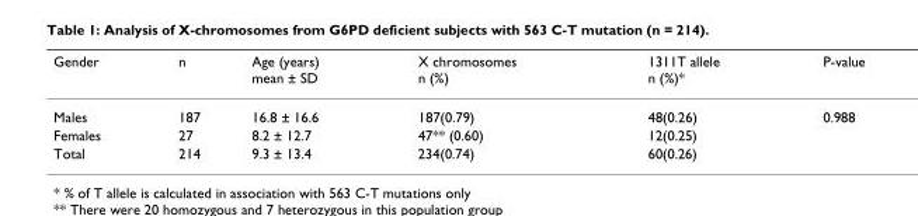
<table><thead><tr><td>Gender</td><td>n</td><td>Age (years) mean ± SD</td><td>X chromosomes n (%)</td><td>1311T allele n (%)*</td><td>P-value</td></tr></thead><tbody><tr><td>Males</td><td>187</td><td>16.8 ± 16.6</td><td>187(0.79)</td><td>48(0.26)</td><td>0.988</td></tr><tr><td>Females</td><td>27</td><td>8.2 ± 12.7</td><td>47** (0.60)</td><td>12(0.25)</td><td></td></tr><tr><td>Total</td><td>214</td><td>9.3 ± 13.4</td><td>234(0.74)</td><td>60(0.26)</td><td></td></tr></tbody></table>